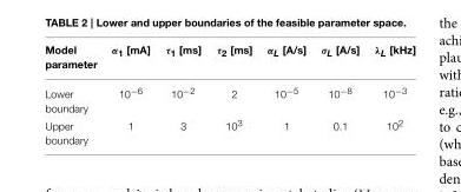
<table><thead><tr><td>Model parameter</td><td>α<sub>1</sub> [mA]</td><td>τ<sub>1</sub> [ms]</td><td>τ<sub>2</sub> [ms]</td><td>α<sub>L</sub> [A/s]</td><td>σ<sub>L</sub> [A/s]</td><td>λ<sub>L</sub> [kHz]</td></tr></thead><tbody><tr><td>Lower boundary</td><td>10<sup>−6</sup></td><td>10<sup>−2</sup></td><td>2</td><td>10<sup>−5</sup></td><td>10<sup>−8</sup></td><td>10<sup>−3</sup></td></tr><tr><td>Upper boundary</td><td>1</td><td>3</td><td>10<sup>3</sup></td><td>1</td><td>0.1</td><td>10<sup>2</sup></td></tr></tbody></table>